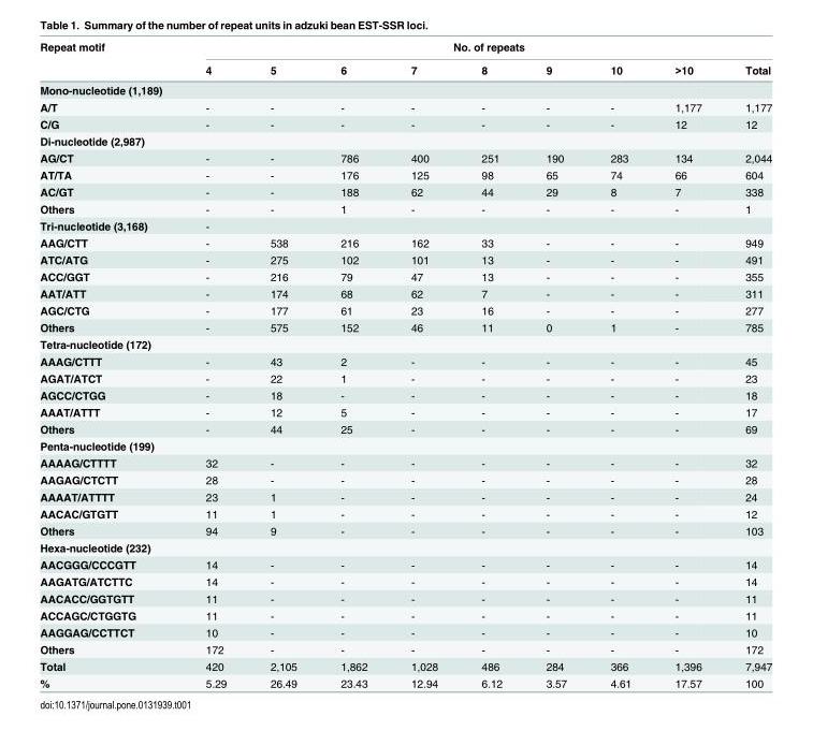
<table><thead><tr><td rowspan="2">Repeat motif</td><td colspan="9">No. of repeats</td></tr><tr><td>4</td><td>5</td><td>6</td><td>7</td><td>8</td><td>9</td><td>10</td><td>&gt;10</td><td>Total</td></tr></thead><tbody><tr><td colspan="10">Mono-nucleotide (1,189)</td></tr><tr><td>A/T</td><td>-</td><td>-</td><td>-</td><td>-</td><td>-</td><td>-</td><td>-</td><td>1,177</td><td>1,177</td></tr><tr><td>C/G</td><td>-</td><td>-</td><td>-</td><td>-</td><td>-</td><td>-</td><td>-</td><td>12</td><td>12</td></tr><tr><td colspan="10">Di-nucleotide (2,987)</td></tr><tr><td>AG/CT</td><td>-</td><td>-</td><td>786</td><td>400</td><td>251</td><td>190</td><td>283</td><td>134</td><td>2,044</td></tr><tr><td>AT/TA</td><td>-</td><td>-</td><td>176</td><td>125</td><td>98</td><td>65</td><td>74</td><td>66</td><td>604</td></tr><tr><td>AC/GT</td><td>-</td><td>-</td><td>188</td><td>62</td><td>44</td><td>29</td><td>8</td><td>7</td><td>338</td></tr><tr><td>Others</td><td>-</td><td>-</td><td>1</td><td>-</td><td>-</td><td>-</td><td>-</td><td>-</td><td>1</td></tr><tr><td>Tri-nucleotide (3,168)</td><td>-</td><td></td><td></td><td></td><td></td><td></td><td></td><td></td><td></td></tr><tr><td>AAG/CTT</td><td>-</td><td>538</td><td>216</td><td>162</td><td>33</td><td>-</td><td>-</td><td>-</td><td>949</td></tr><tr><td>ATC/ATG</td><td>-</td><td>275</td><td>102</td><td>101</td><td>13</td><td>-</td><td>-</td><td>-</td><td>491</td></tr><tr><td>ACC/GGT</td><td>-</td><td>216</td><td>79</td><td>47</td><td>13</td><td>-</td><td>-</td><td>-</td><td>355</td></tr><tr><td>AAT/ATT</td><td>-</td><td>174</td><td>68</td><td>62</td><td>7</td><td>-</td><td>-</td><td>-</td><td>311</td></tr><tr><td>AGC/CTG</td><td>-</td><td>177</td><td>61</td><td>23</td><td>16</td><td>-</td><td>-</td><td>-</td><td>277</td></tr><tr><td>Others</td><td>-</td><td>575</td><td>152</td><td>46</td><td>11</td><td>0</td><td>1</td><td>-</td><td>785</td></tr><tr><td colspan="10">Tetra-nucleotide (172)</td></tr><tr><td>AAAG/CTTT</td><td>-</td><td>43</td><td>2</td><td>-</td><td>-</td><td>-</td><td>-</td><td>-</td><td>45</td></tr><tr><td>AGAT/ATCT</td><td>-</td><td>22</td><td>1</td><td>-</td><td>-</td><td>-</td><td>-</td><td>-</td><td>23</td></tr><tr><td>AGCC/CTGG</td><td>-</td><td>18</td><td>-</td><td>-</td><td>-</td><td>-</td><td>-</td><td>-</td><td>18</td></tr><tr><td>AAAT/ATTT</td><td>-</td><td>12</td><td>5</td><td>-</td><td>-</td><td>-</td><td>-</td><td>-</td><td>17</td></tr><tr><td>Others</td><td>-</td><td>44</td><td>25</td><td>-</td><td>-</td><td>-</td><td>-</td><td>-</td><td>69</td></tr><tr><td colspan="10">Penta-nucleotide (199)</td></tr><tr><td>AAAAG/CTTTT</td><td>32</td><td>-</td><td>-</td><td>-</td><td>-</td><td>-</td><td>-</td><td>-</td><td>32</td></tr><tr><td>AAGAG/CTCTT</td><td>28</td><td>-</td><td>-</td><td>-</td><td>-</td><td>-</td><td>-</td><td>-</td><td>28</td></tr><tr><td>AAAAT/ATTTT</td><td>23</td><td>1</td><td>-</td><td>-</td><td>-</td><td>-</td><td>-</td><td>-</td><td>24</td></tr><tr><td>AACAC/GTGTT</td><td>11</td><td>1</td><td>-</td><td>-</td><td>-</td><td>-</td><td>-</td><td>-</td><td>12</td></tr><tr><td>Others</td><td>94</td><td>9</td><td>-</td><td>-</td><td>-</td><td>-</td><td>-</td><td>-</td><td>103</td></tr><tr><td colspan="10">Hexa-nucleotide (232)</td></tr><tr><td>AACGGG/CCCGTT</td><td>14</td><td>-</td><td>-</td><td>-</td><td>-</td><td>-</td><td>-</td><td>-</td><td>14</td></tr><tr><td>AAGATG/ATCTTC</td><td>14</td><td>-</td><td>-</td><td>-</td><td>-</td><td>-</td><td>-</td><td>-</td><td>14</td></tr><tr><td>AACACC/GGTGTT</td><td>11</td><td>-</td><td>-</td><td>-</td><td>-</td><td>-</td><td>-</td><td>-</td><td>11</td></tr><tr><td>ACCAGC/CTGGTG</td><td>11</td><td>-</td><td>-</td><td>-</td><td>-</td><td>-</td><td>-</td><td>-</td><td>11</td></tr><tr><td>AAGGAG/CCTTCT</td><td>10</td><td>-</td><td>-</td><td>-</td><td>-</td><td>-</td><td>-</td><td>-</td><td>10</td></tr><tr><td>Others</td><td>172</td><td>-</td><td>-</td><td>-</td><td>-</td><td>-</td><td>-</td><td>-</td><td>172</td></tr><tr><td>Total</td><td>420</td><td>2,105</td><td>1,862</td><td>1,028</td><td>486</td><td>284</td><td>366</td><td>1,396</td><td>7,947</td></tr><tr><td>%</td><td>5.29</td><td>26.49</td><td>23.43</td><td>12.94</td><td>6.12</td><td>3.57</td><td>4.61</td><td>17.57</td><td>100</td></tr></tbody></table>